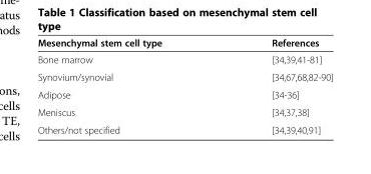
<table><thead><tr><td>Mesenchymal stem cell type</td><td>References</td></tr></thead><tbody><tr><td>Bone marrow</td><td>[34,39,41-81]</td></tr><tr><td>Synovium/synovial</td><td>[34,67,68,82-90]</td></tr><tr><td>Adipose</td><td>[34-36]</td></tr><tr><td>Meniscus</td><td>[34,37,38]</td></tr><tr><td>Others/not specified</td><td>[34,39,40,91]</td></tr></tbody></table>